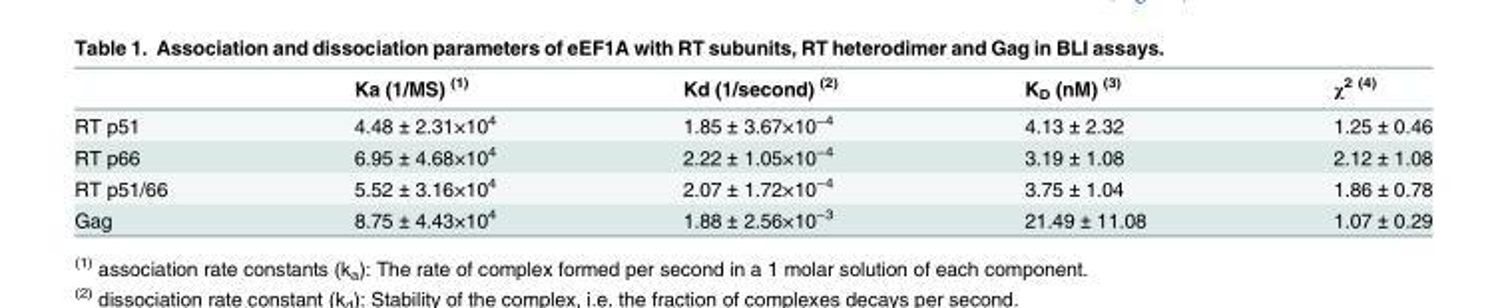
<table><thead><tr><td></td><td>Ka (1/MS) <sup>(1)</sup></td><td>Kd (1/second) <sup>(2)</sup></td><td>K<sub>D</sub> (nM) <sup>(3)</sup></td><td>χ<sup>2 (4)</sup></td></tr></thead><tbody><tr><td>RT p51</td><td>4.48 ± 2.31×10<sup>4</sup></td><td>1.85 ± 3.67×10<sup>−4</sup></td><td>4.13 ± 2.32</td><td>1.25 ± 0.46</td></tr><tr><td>RT p66</td><td>6.95 ± 4.68×10<sup>4</sup></td><td>2.22 ± 1.05×10<sup>−4</sup></td><td>3.19 ± 1.08</td><td>2.12 ± 1.08</td></tr><tr><td>RT p51/66</td><td>5.52 ± 3.16×10<sup>4</sup></td><td>2.07 ± 1.72×10<sup>−4</sup></td><td>3.75 ± 1.04</td><td>1.86 ± 0.78</td></tr><tr><td>Gag</td><td>8.75 ± 4.43×10<sup>4</sup></td><td>1.88 ± 2.56×10<sup>−3</sup></td><td>21.49 ± 11.08</td><td>1.07 ± 0.29</td></tr></tbody></table>